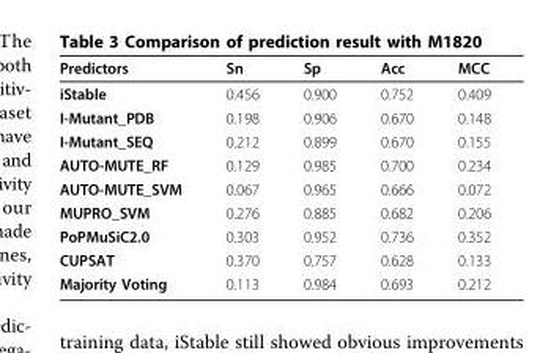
<table><thead><tr><td>Predictors</td><td>Sn</td><td>Sp</td><td>Acc</td><td>MCC</td></tr></thead><tbody><tr><td>iStable</td><td>0.456</td><td>0.900</td><td>0.752</td><td>0.409</td></tr><tr><td>I-Mutant_PDB</td><td>0.198</td><td>0.906</td><td>0.670</td><td>0.148</td></tr><tr><td>I-Mutant_SEQ</td><td>0.212</td><td>0.899</td><td>0.670</td><td>0.155</td></tr><tr><td>AUTO-MUTE_RF</td><td>0.129</td><td>0.985</td><td>0.700</td><td>0.234</td></tr><tr><td>AUTO-MUTE_SVM</td><td>0.067</td><td>0.965</td><td>0.666</td><td>0.072</td></tr><tr><td>MUPRO_SVM</td><td>0.276</td><td>0.885</td><td>0.682</td><td>0.206</td></tr><tr><td>PoPMuSiC2.0</td><td>0.303</td><td>0.952</td><td>0.736</td><td>0.352</td></tr><tr><td>CUPSAT</td><td>0.370</td><td>0.757</td><td>0.628</td><td>0.133</td></tr><tr><td>Majority Voting</td><td>0.113</td><td>0.984</td><td>0.693</td><td>0.212</td></tr></tbody></table>